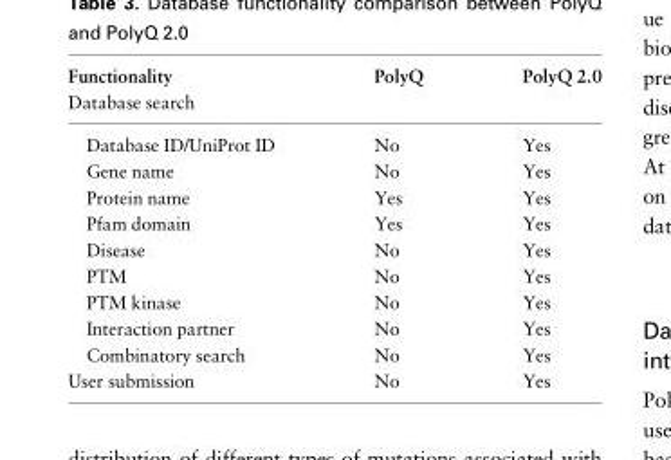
<table><thead><tr><td rowspan="2">Functionality Database search</td><td rowspan="2">PolyQ</td><td rowspan="2">PolyQ 2.0</td></tr><tr></tr></thead><tbody><tr><td>Database ID/UniProt ID</td><td>No</td><td>Yes</td></tr><tr><td>Gene name</td><td>No</td><td>Yes</td></tr><tr><td>Protein name</td><td>Yes</td><td>Yes</td></tr><tr><td>Pfam domain</td><td>Yes</td><td>Yes</td></tr><tr><td>Disease</td><td>No</td><td>Yes</td></tr><tr><td>PTM</td><td>No</td><td>Yes</td></tr><tr><td>PTM kinase</td><td>No</td><td>Yes</td></tr><tr><td>Interaction partner</td><td>No</td><td>Yes</td></tr><tr><td>Combinatory search</td><td>No</td><td>Yes</td></tr><tr><td>User submission</td><td>No</td><td>Yes</td></tr></tbody></table>